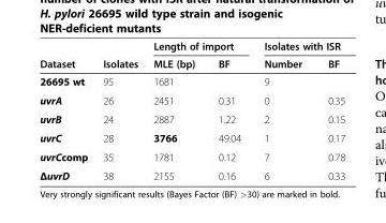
<table><thead><tr><td rowspan="2">Dataset</td><td rowspan="2">Isolates</td><td colspan="2">Length of import</td><td colspan="2">Isolates with ISR</td></tr><tr><td>MLE (bp)</td><td>BF</td><td>Number</td><td>BF</td></tr></thead><tbody><tr><td>26695 wt</td><td>95</td><td>1681</td><td></td><td>9</td><td></td></tr><tr><td>uvrA</td><td>26</td><td>2451</td><td>0.31</td><td>0</td><td>0.35</td></tr><tr><td>uvrB</td><td>24</td><td>2887</td><td>1.22</td><td>2</td><td>0.15</td></tr><tr><td>uvrC</td><td>28</td><td>3766</td><td>49.04</td><td>1</td><td>0.17</td></tr><tr><td>uvrCcomp</td><td>35</td><td>1781</td><td>0.12</td><td>7</td><td>0.78</td></tr><tr><td>ΔuvrD</td><td>38</td><td>2155</td><td>0.16</td><td>6</td><td>0.33</td></tr></tbody></table>